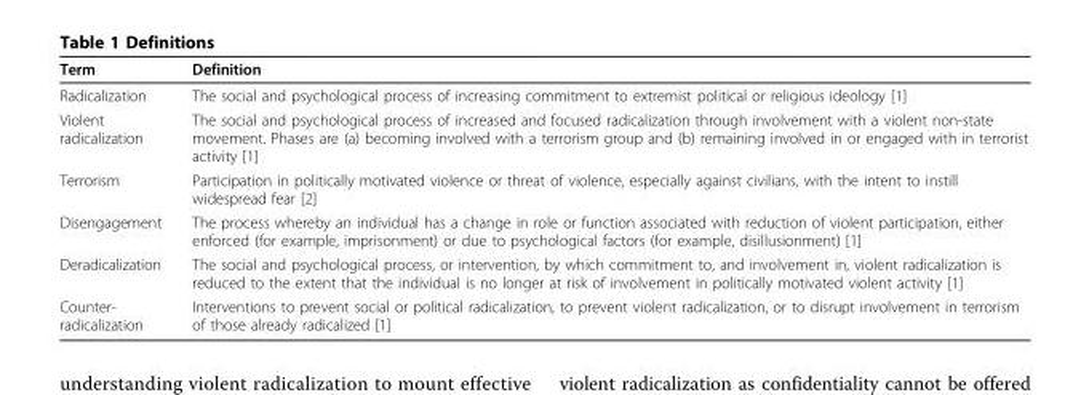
<table><thead><tr><td>Term</td><td>Definition</td></tr></thead><tbody><tr><td>Radicalization</td><td>The social and psychological process of increasing commitment to extremist political or religious ideology [1]</td></tr><tr><td>Violent radicalization</td><td>The social and psychological process of increased and focused radicalization through involvement with a violent non-state movement. Phases are (a) becoming involved with a terrorism group and (b) remaining involved in or engaged with in terrorist activity [1]</td></tr><tr><td>Terrorism</td><td>Participation in politically motivated violence or threat of violence, especially against civilians, with the intent to instill widespread fear [2]</td></tr><tr><td>Disengagement</td><td>The process whereby an individual has a change in role or function associated with reduction of violent participation, either enforced (for example, imprisonment) or due to psychological factors (for example, disillusionment) [1]</td></tr><tr><td>Deradicalization</td><td>The social and psychological process, or intervention, by which commitment to, and involvement in, violent radicalization is reduced to the extent that the individual is no longer at risk of involvement in politically motivated violent activity [1]</td></tr><tr><td>Counter- radicalization</td><td>Interventions to prevent social or political radicalization, to prevent violent radicalization, or to disrupt involvement in terrorism of those already radicalized [1]</td></tr></tbody></table>